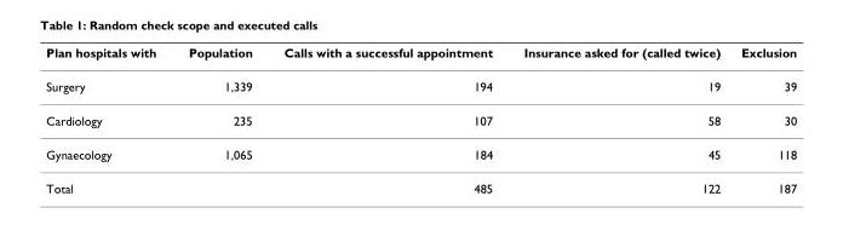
<table><thead><tr><td>Plan hospitals with</td><td>Population</td><td>Calls with a successful appointment</td><td>Insurance asked for (called twice)</td><td>Exclusion</td></tr></thead><tbody><tr><td>Surgery</td><td>1,339</td><td>194</td><td>19</td><td>39</td></tr><tr><td>Cardiology</td><td>235</td><td>107</td><td>58</td><td>30</td></tr><tr><td>Gynaecology</td><td>1,065</td><td>184</td><td>45</td><td>118</td></tr><tr><td>Total</td><td></td><td>485</td><td>122</td><td>187</td></tr></tbody></table>